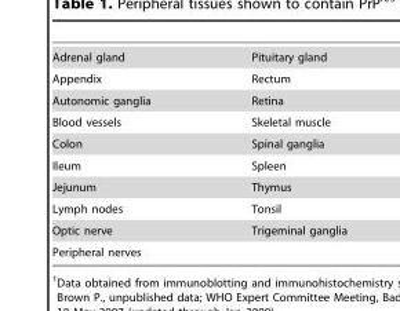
<table><tbody><tr><td>Adrenal gland</td><td>Pituitary gland</td></tr><tr><td>Appendix</td><td>Rectum</td></tr><tr><td>Autonomic ganglia</td><td>Retina</td></tr><tr><td>Blood vessels</td><td>Skeletal muscle</td></tr><tr><td>Colon</td><td>Spinal ganglia</td></tr><tr><td>Ileum</td><td>Spleen</td></tr><tr><td>Jejunum</td><td>Thymus</td></tr><tr><td>Lymph nodes</td><td>Tonsil</td></tr><tr><td>Optic nerve</td><td>Trigeminal ganglia</td></tr><tr><td>Peripheral nerves</td><td></td></tr></tbody></table>